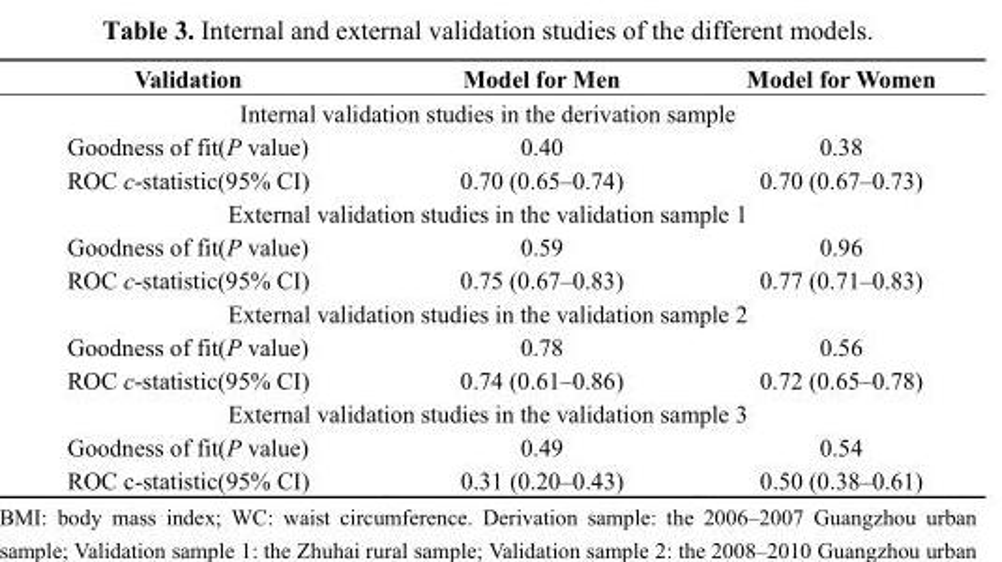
<table><thead><tr><td>Validation</td><td>Model for Men</td><td>Model for Women</td></tr></thead><tbody><tr><td colspan="3">Internal validation studies in the derivation sample</td></tr><tr><td>Goodness of fit(P value)</td><td>0.40</td><td>0.38</td></tr><tr><td>ROC c-statistic(95% CI)</td><td>0.70 (0.65–0.74)</td><td>0.70 (0.67–0.73)</td></tr><tr><td colspan="3">External validation studies in the validation sample 1</td></tr><tr><td>Goodness of fit(P value)</td><td>0.59</td><td>0.96</td></tr><tr><td>ROC c-statistic(95% CI)</td><td>0.75 (0.67–0.83)</td><td>0.77 (0.71–0.83)</td></tr><tr><td colspan="3">External validation studies in the validation sample 2</td></tr><tr><td>Goodness of fit(P value)</td><td>0.78</td><td>0.56</td></tr><tr><td>ROC c-statistic(95% CI)</td><td>0.74 (0.61–0.86)</td><td>0.72 (0.65–0.78)</td></tr><tr><td colspan="3">External validation studies in the validation sample 3</td></tr><tr><td>Goodness of fit(P value)</td><td>0.49</td><td>0.54</td></tr><tr><td>ROC c-statistic(95% CI)</td><td>0.31 (0.20–0.43)</td><td>0.50 (0.38–0.61)</td></tr></tbody></table>